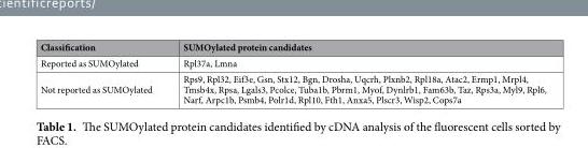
<table><thead><tr><td>Classification</td><td>SUMOylated protein candidates</td></tr></thead><tbody><tr><td>Reported as SUMOylated</td><td>Rpl37a, Lmna</td></tr><tr><td>Not reported as SUMOylated</td><td>Rps9, Rpl32, Eif3e, Gsn, Stx12, Bgn, Drosha, Uqcrh, Plxnb2, Rpl18a, Atac2, Ermp1, Mrpl4, Tmsb4x, Rpsa, Lgals3, Pcolce, Tuba1b, Pbrm1, Myof, Dynlrb1, Fam63b, Taz, Rps3a, Myl9, Rpl6, Narf, Arpc1b, Psmb4, Polr1d, Rpl10, Fth1, Anxa5, Plscr3, Wisp2, Cops7a</td></tr></tbody></table>